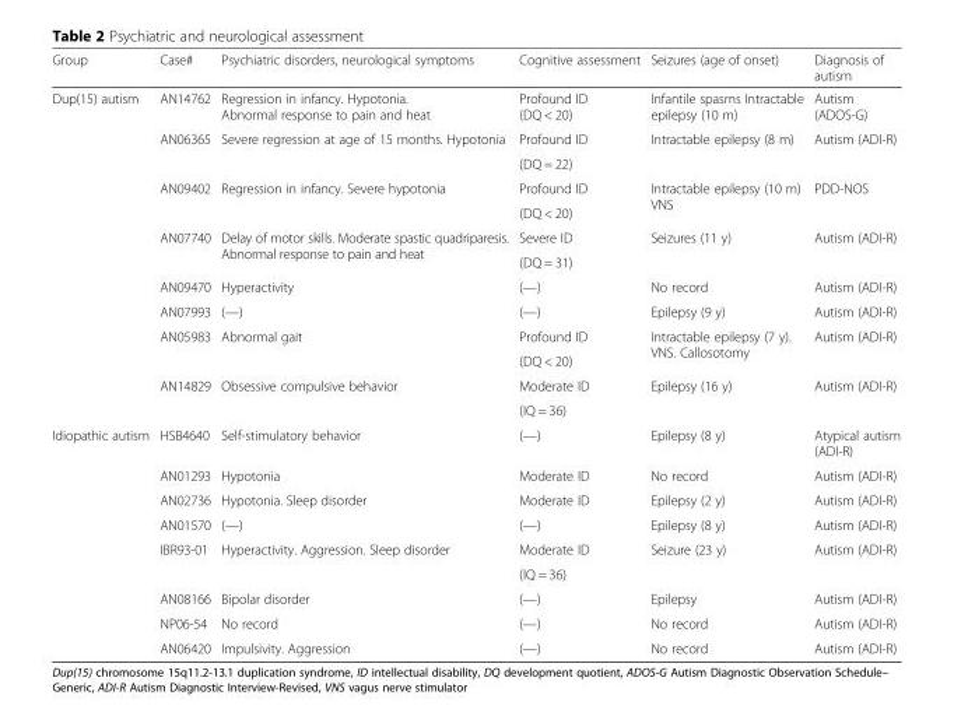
<table><thead><tr><td>Group</td><td>Case#</td><td>Psychiatric disorders, neurological symptoms</td><td>Cognitive assessment</td><td>Seizures (age of onset)</td><td>Diagnosis of autism</td></tr></thead><tbody><tr><td rowspan="13">Dup(15) autism</td><td>AN14762</td><td>Regression in infancy. Hypotonia. Abnormal response to pain and heat</td><td>Profound ID (DQ &lt; 20)</td><td>Infantile spasms Intractable epilepsy (10 m)</td><td>Autism (ADOS-G)</td></tr><tr><td rowspan="2">AN06365</td><td rowspan="2">Severe regression at age of 15 months. Hypotonia</td><td>Profound ID</td><td rowspan="2">Intractable epilepsy (8 m)</td><td rowspan="2">Autism (ADI-R)</td></tr><tr><td>(DQ = 22)</td></tr><tr><td rowspan="2">AN09402</td><td rowspan="2">Regression in infancy. Severe hypotonia</td><td>Profound ID</td><td rowspan="2">Intractable epilepsy (10 m) VNS</td><td rowspan="2">PDD-NOS</td></tr><tr><td>(DQ &lt; 20)</td></tr><tr><td rowspan="2">AN07740</td><td rowspan="2">Delay of motor skills. Moderate spastic quadriparesis. Abnormal response to pain and heat</td><td>Severe ID</td><td rowspan="2">Seizures (11 y)</td><td rowspan="2">Autism (ADI-R)</td></tr><tr><td>(DQ = 31)</td></tr><tr><td>AN09470</td><td>Hyperactivity</td><td>(—)</td><td>No record</td><td>Autism (ADI-R)</td></tr><tr><td>AN07993</td><td>(—)</td><td>(—)</td><td>Epilepsy (9 y)</td><td>Autism (ADI-R)</td></tr><tr><td rowspan="2">AN05983</td><td rowspan="2">Abnormal gait</td><td>Profound ID</td><td rowspan="2">Intractable epilepsy (7 y). VNS. Callosotomy</td><td rowspan="2">Autism (ADI-R)</td></tr><tr><td>(DQ &lt; 20)</td></tr><tr><td rowspan="2">AN14829</td><td rowspan="2">Obsessive compulsive behavior</td><td>Moderate ID</td><td rowspan="2">Epilepsy (16 y)</td><td rowspan="2">Autism (ADI-R)</td></tr><tr><td>(IQ = 36)</td></tr><tr><td rowspan="9">Idiopathic autism</td><td>HSB4640</td><td>Self-stimulatory behavior</td><td>(—)</td><td>Epilepsy (8 y)</td><td>Atypical autism (ADI-R)</td></tr><tr><td>AN01293</td><td>Hypotonia</td><td>Moderate ID</td><td>No record</td><td>Autism (ADI-R)</td></tr><tr><td>AN02736</td><td>Hypotonia. Sleep disorder</td><td>Moderate ID</td><td>Epilepsy (2 y)</td><td>Autism (ADI-R)</td></tr><tr><td>AN01570</td><td>(—)</td><td>(—)</td><td>Epilepsy (8 y)</td><td>Autism (ADI-R)</td></tr><tr><td rowspan="2">IBR93-01</td><td rowspan="2">Hyperactivity. Aggression. Sleep disorder</td><td>Moderate ID</td><td rowspan="2">Seizure (23 y)</td><td rowspan="2">Autism (ADI-R)</td></tr><tr><td>(IQ = 36)</td></tr><tr><td>AN08166</td><td>Bipolar disorder</td><td>(—)</td><td>Epilepsy</td><td>Autism (ADI-R)</td></tr><tr><td>NP06-54</td><td>No record</td><td>(—)</td><td>No record</td><td>Autism (ADI-R)</td></tr><tr><td>AN06420</td><td>Impulsivity. Aggression</td><td>(—)</td><td>No record</td><td>Autism (ADI-R)</td></tr></tbody></table>